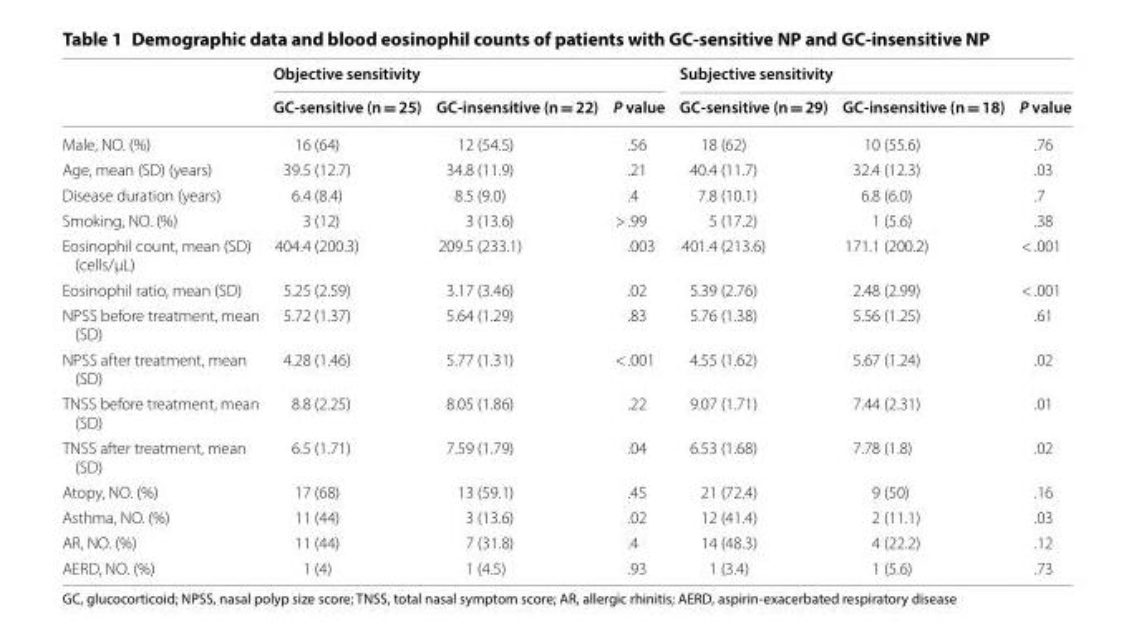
<table><thead><tr><td rowspan="2"></td><td colspan="3">Objective sensitivity</td><td colspan="3">Subjective sensitivity</td></tr><tr><td>GC-sensitive (n = 25)</td><td>GC-insensitive (n = 22)</td><td>P value</td><td>GC-sensitive (n = 29)</td><td>GC-insensitive (n = 18)</td><td>P value</td></tr></thead><tbody><tr><td>Male, NO. (%)</td><td>16 (64)</td><td>12 (54.5)</td><td>.56</td><td>18 (62)</td><td>10 (55.6)</td><td>.76</td></tr><tr><td>Age, mean (SD) (years)</td><td>39.5 (12.7)</td><td>34.8 (11.9)</td><td>.21</td><td>40.4 (11.7)</td><td>32.4 (12.3)</td><td>.03</td></tr><tr><td>Disease duration (years)</td><td>6.4 (8.4)</td><td>8.5 (9.0)</td><td>.4</td><td>7.8 (10.1)</td><td>6.8 (6.0)</td><td>.7</td></tr><tr><td>Smoking, NO. (%)</td><td>3 (12)</td><td>3 (13.6)</td><td>&gt; .99</td><td>5 (17.2)</td><td>1 (5.6)</td><td>.38</td></tr><tr><td>Eosinophil count, mean (SD) (cells/μL)</td><td>404.4 (200.3)</td><td>209.5 (233.1)</td><td>.003</td><td>401.4 (213.6)</td><td>171.1 (200.2)</td><td>&lt; .001</td></tr><tr><td>Eosinophil ratio, mean (SD)</td><td>5.25 (2.59)</td><td>3.17 (3.46)</td><td>.02</td><td>5.39 (2.76)</td><td>2.48 (2.99)</td><td>&lt; .001</td></tr><tr><td>NPSS before treatment, mean (SD)</td><td>5.72 (1.37)</td><td>5.64 (1.29)</td><td>.83</td><td>5.76 (1.38)</td><td>5.56 (1.25)</td><td>.61</td></tr><tr><td>NPSS after treatment, mean (SD)</td><td>4.28 (1.46)</td><td>5.77 (1.31)</td><td>&lt; .001</td><td>4.55 (1.62)</td><td>5.67 (1.24)</td><td>.02</td></tr><tr><td>TNSS before treatment, mean (SD)</td><td>8.8 (2.25)</td><td>8.05 (1.86)</td><td>.22</td><td>9.07 (1.71)</td><td>7.44 (2.31)</td><td>.01</td></tr><tr><td>TNSS after treatment, mean (SD)</td><td>6.5 (1.71)</td><td>7.59 (1.79)</td><td>.04</td><td>6.53 (1.68)</td><td>7.78 (1.8)</td><td>.02</td></tr><tr><td>Atopy, NO. (%)</td><td>17 (68)</td><td>13 (59.1)</td><td>.45</td><td>21 (72.4)</td><td>9 (50)</td><td>.16</td></tr><tr><td>Asthma, NO. (%)</td><td>11 (44)</td><td>3 (13.6)</td><td>.02</td><td>12 (41.4)</td><td>2 (11.1)</td><td>.03</td></tr><tr><td>AR, NO. (%)</td><td>11 (44)</td><td>7 (31.8)</td><td>.4</td><td>14 (48.3)</td><td>4 (22.2)</td><td>.12</td></tr><tr><td>AERD, NO. (%)</td><td>1 (4)</td><td>1 (4.5)</td><td>.93</td><td>1 (3.4)</td><td>1 (5.6)</td><td>.73</td></tr></tbody></table>